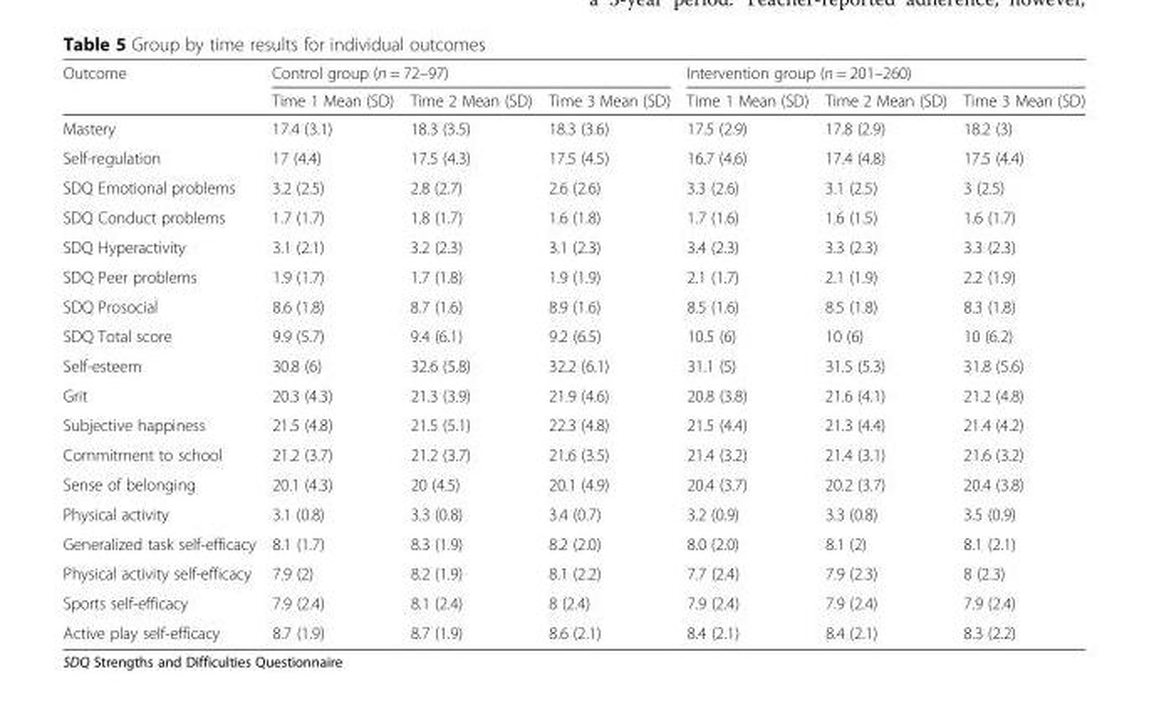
<table><thead><tr><td rowspan="2">Outcome</td><td colspan="3">Control group (n = 72–97)</td><td colspan="3">Intervention group (n = 201–260)</td></tr><tr><td>Time 1 Mean (SD)</td><td>Time 2 Mean (SD)</td><td>Time 3 Mean (SD)</td><td>Time 1 Mean (SD)</td><td>Time 2 Mean (SD)</td><td>Time 3 Mean (SD)</td></tr></thead><tbody><tr><td>Mastery</td><td>17.4 (3.1)</td><td>18.3 (3.5)</td><td>18.3 (3.6)</td><td>17.5 (2.9)</td><td>17.8 (2.9)</td><td>18.2 (3)</td></tr><tr><td>Self-regulation</td><td>17 (4.4)</td><td>17.5 (4.3)</td><td>17.5 (4.5)</td><td>16.7 (4.6)</td><td>17.4 (4.8)</td><td>17.5 (4.4)</td></tr><tr><td>SDQ Emotional problems</td><td>3.2 (2.5)</td><td>2.8 (2.7)</td><td>2.6 (2.6)</td><td>3.3 (2.6)</td><td>3.1 (2.5)</td><td>3 (2.5)</td></tr><tr><td>SDQ Conduct problems</td><td>1.7 (1.7)</td><td>1.8 (1.7)</td><td>1.6 (1.8)</td><td>1.7 (1.6)</td><td>1.6 (1.5)</td><td>1.6 (1.7)</td></tr><tr><td>SDQ Hyperactivity</td><td>3.1 (2.1)</td><td>3.2 (2.3)</td><td>3.1 (2.3)</td><td>3.4 (2.3)</td><td>3.3 (2.3)</td><td>3.3 (2.3)</td></tr><tr><td>SDQ Peer problems</td><td>1.9 (1.7)</td><td>1.7 (1.8)</td><td>1.9 (1.9)</td><td>2.1 (1.7)</td><td>2.1 (1.9)</td><td>2.2 (1.9)</td></tr><tr><td>SDQ Prosocial</td><td>8.6 (1.8)</td><td>8.7 (1.6)</td><td>8.9 (1.6)</td><td>8.5 (1.6)</td><td>8.5 (1.8)</td><td>8.3 (1.8)</td></tr><tr><td>SDQ Total score</td><td>9.9 (5.7)</td><td>9.4 (6.1)</td><td>9.2 (6.5)</td><td>10.5 (6)</td><td>10 (6)</td><td>10 (6.2)</td></tr><tr><td>Self-esteem</td><td>30.8 (6)</td><td>32.6 (5.8)</td><td>32.2 (6.1)</td><td>31.1 (5)</td><td>31.5 (5.3)</td><td>31.8 (5.6)</td></tr><tr><td>Grit</td><td>20.3 (4.3)</td><td>21.3 (3.9)</td><td>21.9 (4.6)</td><td>20.8 (3.8)</td><td>21.6 (4.1)</td><td>21.2 (4.8)</td></tr><tr><td>Subjective happiness</td><td>21.5 (4.8)</td><td>21.5 (5.1)</td><td>22.3 (4.8)</td><td>21.5 (4.4)</td><td>21.3 (4.4)</td><td>21.4 (4.2)</td></tr><tr><td>Commitment to school</td><td>21.2 (3.7)</td><td>21.2 (3.7)</td><td>21.6 (3.5)</td><td>21.4 (3.2)</td><td>21.4 (3.1)</td><td>21.6 (3.2)</td></tr><tr><td>Sense of belonging</td><td>20.1 (4.3)</td><td>20 (4.5)</td><td>20.1 (4.9)</td><td>20.4 (3.7)</td><td>20.2 (3.7)</td><td>20.4 (3.8)</td></tr><tr><td>Physical activity</td><td>3.1 (0.8)</td><td>3.3 (0.8)</td><td>3.4 (0.7)</td><td>3.2 (0.9)</td><td>3.3 (0.8)</td><td>3.5 (0.9)</td></tr><tr><td>Generalized task self-efficacy</td><td>8.1 (1.7)</td><td>8.3 (1.9)</td><td>8.2 (2.0)</td><td>8.0 (2.0)</td><td>8.1 (2)</td><td>8.1 (2.1)</td></tr><tr><td>Physical activity self-efficacy</td><td>7.9 (2)</td><td>8.2 (1.9)</td><td>8.1 (2.2)</td><td>7.7 (2.4)</td><td>7.9 (2.3)</td><td>8 (2.3)</td></tr><tr><td>Sports self-efficacy</td><td>7.9 (2.4)</td><td>8.1 (2.4)</td><td>8 (2.4)</td><td>7.9 (2.4)</td><td>7.9 (2.4)</td><td>7.9 (2.4)</td></tr><tr><td>Active play self-efficacy</td><td>8.7 (1.9)</td><td>8.7 (1.9)</td><td>8.6 (2.1)</td><td>8.4 (2.1)</td><td>8.4 (2.1)</td><td>8.3 (2.2)</td></tr></tbody></table>